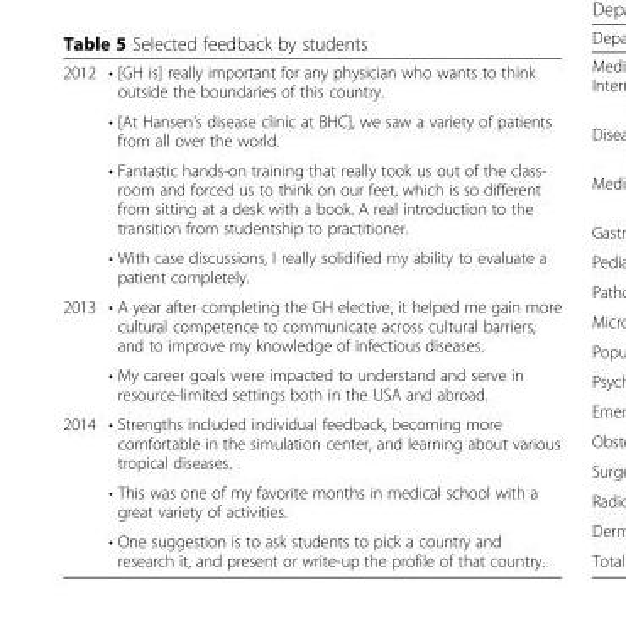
<table><tbody><tr><td rowspan="4">2012</td><td>• [GH is] really important for any physician who wants to think outside the boundaries of this country.</td></tr><tr><td>• [At Hansen’s disease clinic at BHC], we saw a variety of patients from all over the world.</td></tr><tr><td>• Fantastic hands-on training that really took us out of the class- room and forced us to think on our feet, which is so different from sitting at a desk with a book. A real introduction to the transition from studentship to practitioner.</td></tr><tr><td>• With case discussions, I really solidified my ability to evaluate a patient completely.</td></tr><tr><td rowspan="2">2013</td><td>• A year after completing the GH elective, it helped me gain more cultural competence to communicate across cultural barriers, and to improve my knowledge of infectious diseases.</td></tr><tr><td>• My career goals were impacted to understand and serve in resource-limited settings both in the USA and abroad.</td></tr><tr><td rowspan="3">2014</td><td>• Strengths included individual feedback, becoming more comfortable in the simulation center, and learning about various tropical diseases.</td></tr><tr><td>• This was one of my favorite months in medical school with a great variety of activities.</td></tr><tr><td>• One suggestion is to ask students to pick a country and research it, and present or write-up the profile of that country.</td></tr></tbody></table>